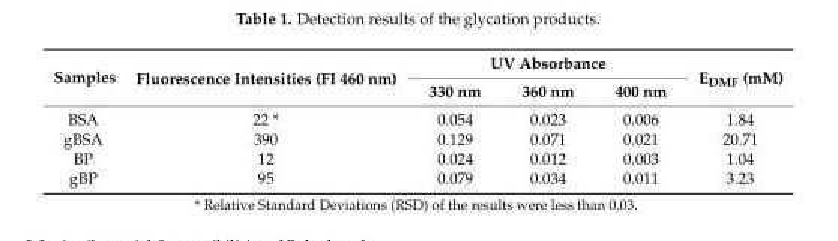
<table><thead><tr><td rowspan="2">Samples</td><td rowspan="2">Fluorescence Intensities (FI 460 nm)</td><td colspan="3">UV Absorbance</td><td rowspan="2">E<sub>DMF</sub> (mM)</td></tr><tr><td>330 nm</td><td>360 nm</td><td>400 nm</td></tr></thead><tbody><tr><td>BSA</td><td>22 *</td><td>0.054</td><td>0.023</td><td>0.006</td><td>1.84</td></tr><tr><td>gBSA</td><td>390</td><td>0.129</td><td>0.071</td><td>0.021</td><td>20.71</td></tr><tr><td>BP</td><td>12</td><td>0.024</td><td>0.012</td><td>0.003</td><td>1.04</td></tr><tr><td>gBP</td><td>95</td><td>0.079</td><td>0.034</td><td>0.011</td><td>3.23</td></tr></tbody></table>